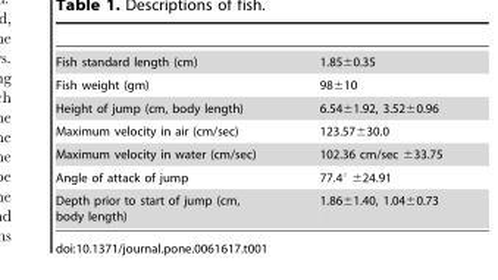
<table><tbody><tr><td>Fish standard length (cm)</td><td>1.85±0.35</td></tr><tr><td>Fish weight (gm)</td><td>98±10</td></tr><tr><td>Height of jump (cm, body length)</td><td>6.54±1.92, 3.52±0.96</td></tr><tr><td>Maximum velocity in air (cm/sec)</td><td>123.57±30.0</td></tr><tr><td>Maximum velocity in water (cm/sec)</td><td>102.36 cm/sec ±33.75</td></tr><tr><td>Angle of attack of jump</td><td>77.4° ±24.91</td></tr><tr><td>Depth prior to start of jump (cm, body length)</td><td>1.86±1.40, 1.04±0.73</td></tr></tbody></table>